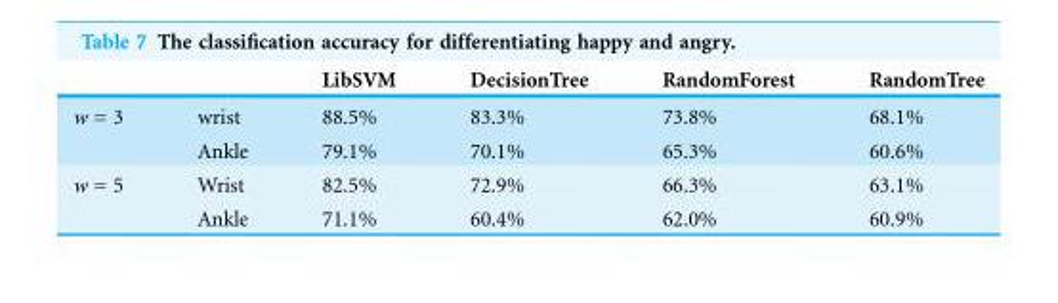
<table><thead><tr><td></td><td></td><td>LibSVM</td><td>DecisionTree</td><td>RandomForest</td><td>RandomTree</td></tr></thead><tbody><tr><td rowspan="2">w = 3</td><td>wrist</td><td>88.5%</td><td>83.3%</td><td>73.8%</td><td>68.1%</td></tr><tr><td>Ankle</td><td>79.1%</td><td>70.1%</td><td>65.3%</td><td>60.6%</td></tr><tr><td rowspan="2">w = 5</td><td>Wrist</td><td>82.5%</td><td>72.9%</td><td>66.3%</td><td>63.1%</td></tr><tr><td>Ankle</td><td>71.1%</td><td>60.4%</td><td>62.0%</td><td>60.9%</td></tr></tbody></table>